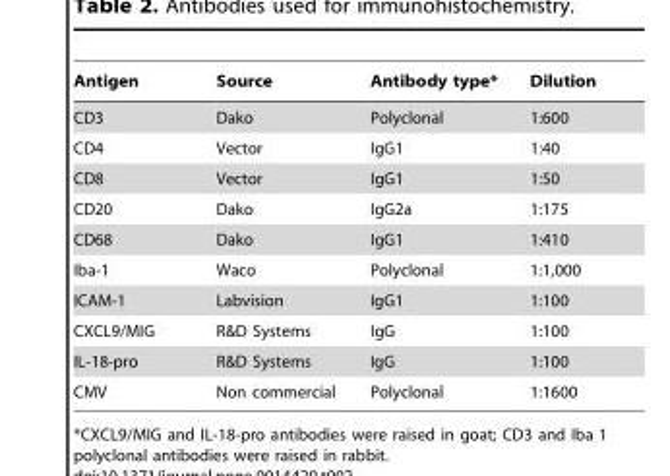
<table><thead><tr><td>Antigen</td><td>Source</td><td>Antibody type*</td><td>Dilution</td></tr></thead><tbody><tr><td>CD3</td><td>Dako</td><td>Polyclonal</td><td>1:600</td></tr><tr><td>CD4</td><td>Vector</td><td>IgG1</td><td>1:40</td></tr><tr><td>CD8</td><td>Vector</td><td>IgG1</td><td>1:50</td></tr><tr><td>CD20</td><td>Dako</td><td>IgG2a</td><td>1:175</td></tr><tr><td>CD68</td><td>Dako</td><td>IgG1</td><td>1:410</td></tr><tr><td>Iba-1</td><td>Waco</td><td>Polyclonal</td><td>1:1,000</td></tr><tr><td>ICAM-1</td><td>Labvision</td><td>IgG1</td><td>1:100</td></tr><tr><td>CXCL9/MIG</td><td>R&amp;D Systems</td><td>IgG</td><td>1:100</td></tr><tr><td>IL-18-pro</td><td>R&amp;D Systems</td><td>IgG</td><td>1:100</td></tr><tr><td>CMV</td><td>Non commercial</td><td>Polyclonal</td><td>1:1600</td></tr></tbody></table>